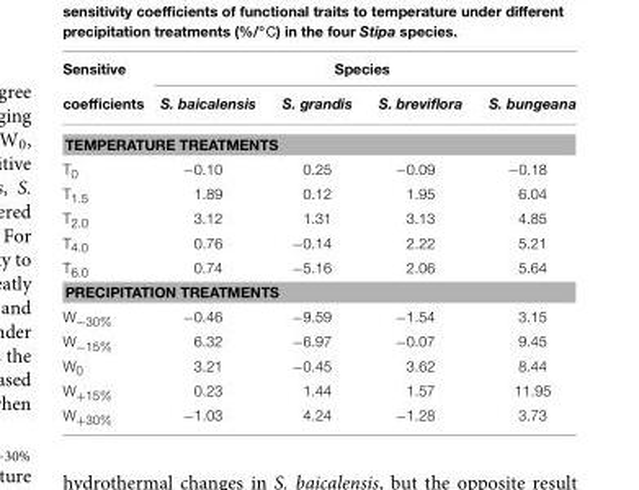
<table><thead><tr><td rowspan="2">Sensitive coefficients</td><td colspan="4">Species</td></tr><tr><td>S. baicalensis</td><td>S. grandis</td><td>S. breviflora</td><td>S. bungeana</td></tr></thead><tbody><tr><td colspan="5">TEMPERATURE TREATMENTS</td></tr><tr><td>T<sub>0</sub></td><td>−0.10</td><td>0.25</td><td>−0.09</td><td>−0.18</td></tr><tr><td>T<sub>1.5</sub></td><td>1.89</td><td>0.12</td><td>1.95</td><td>6.04</td></tr><tr><td>T<sub>2.0</sub></td><td>3.12</td><td>1.31</td><td>3.13</td><td>4.85</td></tr><tr><td>T<sub>4.0</sub></td><td>0.76</td><td>−0.14</td><td>2.22</td><td>5.21</td></tr><tr><td>T<sub>6.0</sub></td><td>0.74</td><td>−5.16</td><td>2.06</td><td>5.64</td></tr><tr><td colspan="5">PRECIPITATION TREATMENTS</td></tr><tr><td>W<sub>−30%</sub></td><td>−0.46</td><td>−9.59</td><td>−1.54</td><td>3.15</td></tr><tr><td>W<sub>−15%</sub></td><td>6.32</td><td>−6.97</td><td>−0.07</td><td>9.45</td></tr><tr><td>W<sub>0</sub></td><td>3.21</td><td>−0.45</td><td>3.62</td><td>8.44</td></tr><tr><td>W<sub>+15%</sub></td><td>0.23</td><td>1.44</td><td>1.57</td><td>11.95</td></tr><tr><td>W<sub>+30%</sub></td><td>−1.03</td><td>4.24</td><td>−1.28</td><td>3.73</td></tr></tbody></table>